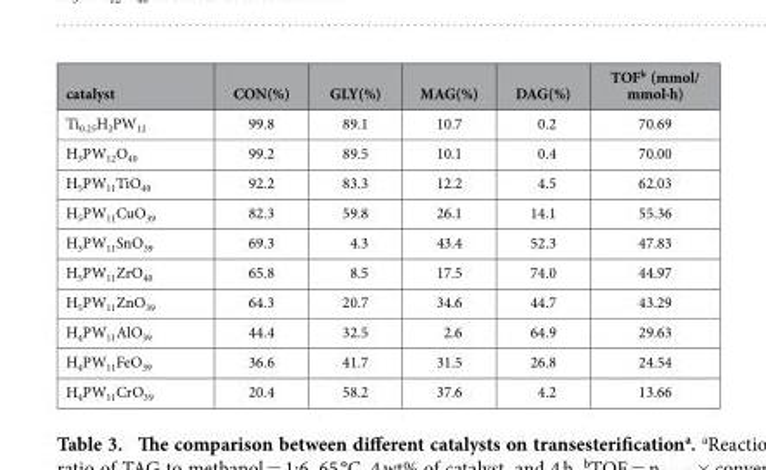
<table><thead><tr><td>catalyst</td><td>CON(%)</td><td>GLY(%)</td><td>MAG(%)</td><td>DAG(%)</td><td>TOF<sup>b</sup> (mmol/ mmol·h)</td></tr></thead><tbody><tr><td>Ti<sub>0.25</sub>H<sub>2</sub>PW<sub>12</sub></td><td>99.8</td><td>89.1</td><td>10.7</td><td>0.2</td><td>70.69</td></tr><tr><td>H<sub>3</sub>PW<sub>12</sub>O<sub>40</sub></td><td>99.2</td><td>89.5</td><td>10.1</td><td>0.4</td><td>70.00</td></tr><tr><td>H<sub>5</sub>PW<sub>11</sub>TiO<sub>40</sub></td><td>92.2</td><td>83.3</td><td>12.2</td><td>4.5</td><td>62.03</td></tr><tr><td>H<sub>5</sub>PW<sub>11</sub>CuO<sub>39</sub></td><td>82.3</td><td>59.8</td><td>26.1</td><td>14.1</td><td>55.36</td></tr><tr><td>H<sub>3</sub>PW<sub>11</sub>SnO<sub>39</sub></td><td>69.3</td><td>4.3</td><td>43.4</td><td>52.3</td><td>47.83</td></tr><tr><td>H<sub>5</sub>PW<sub>11</sub>ZrO<sub>40</sub></td><td>65.8</td><td>8.5</td><td>17.5</td><td>74.0</td><td>44.97</td></tr><tr><td>H<sub>5</sub>PW<sub>11</sub>ZnO<sub>39</sub></td><td>64.3</td><td>20.7</td><td>34.6</td><td>44.7</td><td>43.29</td></tr><tr><td>H<sub>4</sub>PW<sub>11</sub>AlO<sub>39</sub></td><td>44.4</td><td>32.5</td><td>2.6</td><td>64.9</td><td>29.63</td></tr><tr><td>H<sub>4</sub>PW<sub>11</sub>FeO<sub>39</sub></td><td>36.6</td><td>41.7</td><td>31.5</td><td>26.8</td><td>24.54</td></tr><tr><td>H<sub>4</sub>PW<sub>11</sub>CrO<sub>39</sub></td><td>20.4</td><td>58.2</td><td>37.6</td><td>4.2</td><td>13.66</td></tr></tbody></table>